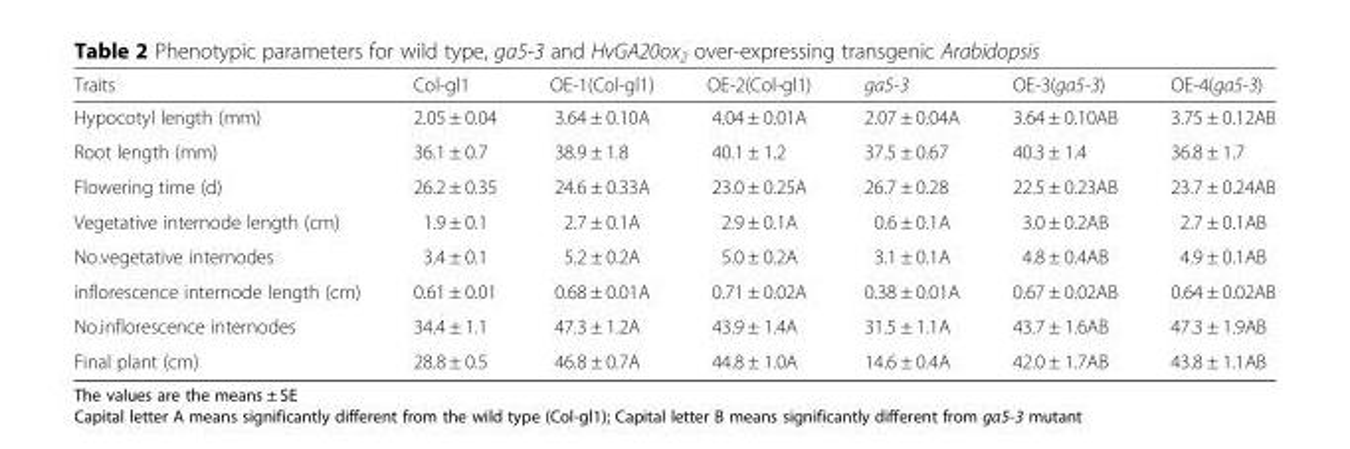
<table><thead><tr><td>Traits</td><td>Col-gl1</td><td>OE-1(Col-gl1)</td><td>OE-2(Col-gl1)</td><td>ga5-3</td><td>OE-3(ga5-3)</td><td>OE-4(ga5-3)</td></tr></thead><tbody><tr><td>Hypocotyl length (mm)</td><td>2.05 ± 0.04</td><td>3.64 ± 0.10A</td><td>4.04 ± 0.01A</td><td>2.07 ± 0.04A</td><td>3.64 ± 0.10AB</td><td>3.75 ± 0.12AB</td></tr><tr><td>Root length (mm)</td><td>36.1 ± 0.7</td><td>38.9 ± 1.8</td><td>40.1 ± 1.2</td><td>37.5 ± 0.67</td><td>40.3 ± 1.4</td><td>36.8 ± 1.7</td></tr><tr><td>Flowering time (d)</td><td>26.2 ± 0.35</td><td>24.6 ± 0.33A</td><td>23.0 ± 0.25A</td><td>26.7 ± 0.28</td><td>22.5 ± 0.23AB</td><td>23.7 ± 0.24AB</td></tr><tr><td>Vegetative internode length (cm)</td><td>1.9 ± 0.1</td><td>2.7 ± 0.1A</td><td>2.9 ± 0.1A</td><td>0.6 ± 0.1A</td><td>3.0 ± 0.2AB</td><td>2.7 ± 0.1AB</td></tr><tr><td>No.vegetative internodes</td><td>3.4 ± 0.1</td><td>5.2 ± 0.2A</td><td>5.0 ± 0.2A</td><td>3.1 ± 0.1A</td><td>4.8 ± 0.4AB</td><td>4.9 ± 0.1AB</td></tr><tr><td>inflorescence internode length (cm)</td><td>0.61 ± 0.01</td><td>0.68 ± 0.01A</td><td>0.71 ± 0.02A</td><td>0.38 ± 0.01A</td><td>0.67 ± 0.02AB</td><td>0.64 ± 0.02AB</td></tr><tr><td>No.inflorescence internodes</td><td>34.4 ± 1.1</td><td>47.3 ± 1.2A</td><td>43.9 ± 1.4A</td><td>31.5 ± 1.1A</td><td>43.7 ± 1.6AB</td><td>47.3 ± 1.9AB</td></tr><tr><td>Final plant (cm)</td><td>28.8 ± 0.5</td><td>46.8 ± 0.7A</td><td>44.8 ± 1.0A</td><td>14.6 ± 0.4A</td><td>42.0 ± 1.7AB</td><td>43.8 ± 1.1AB</td></tr></tbody></table>